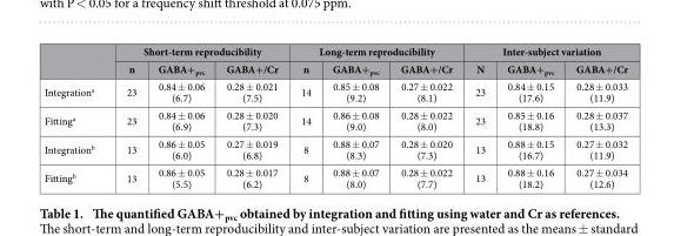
<table><thead><tr><td rowspan="2"></td><td colspan="3">Short-term reproducibility</td><td colspan="3">Long-term reproducibility</td><td colspan="3">Inter-subject variation</td></tr><tr><td>n</td><td>GABA+<sub>pvc</sub></td><td>GABA+/Cr</td><td>n</td><td>GABA+<sub>pvc</sub></td><td>GABA+/Cr</td><td>N</td><td>GABA+<sub>pvc</sub></td><td>GABA+/Cr</td></tr></thead><tbody><tr><td>Integration<sup>a</sup></td><td>23</td><td>0.84 ± 0.06 (6.7)</td><td>0.28 ± 0.021 (7.5)</td><td>14</td><td>0.85 ± 0.08 (9.2)</td><td>0.27 ± 0.022 (8.1)</td><td>23</td><td>0.84 ± 0.15 (17.6)</td><td>0.28 ± 0.033 (11.9)</td></tr><tr><td>Fitting<sup>a</sup></td><td>23</td><td>0.84 ± 0.06 (6.9)</td><td>0.28 ± 0.020 (7.3)</td><td>14</td><td>0.86 ± 0.08 (9.0)</td><td>0.28 ± 0.022 (8.0)</td><td>23</td><td>0.85 ± 0.16 (18.8)</td><td>0.28 ± 0.037 (13.3)</td></tr><tr><td>Integration<sup>b</sup></td><td>13</td><td>0.86 ± 0.05 (6.0)</td><td>0.27 ± 0.019 (6.8)</td><td>8</td><td>0.88 ± 0.07 (8.3)</td><td>0.28 ± 0.020 (7.3)</td><td>13</td><td>0.88 ± 0.15 (16.7)</td><td>0.27 ± 0.032 (11.9)</td></tr><tr><td>Fitting<sup>b</sup></td><td>13</td><td>0.86 ± 0.05 (5.5)</td><td>0.28 ± 0.017 (6.2)</td><td>8</td><td>0.88 ± 0.07 (8.0)</td><td>0.28 ± 0.022 (7.7)</td><td>13</td><td>0.88 ± 0.16 (18.2)</td><td>0.27 ± 0.034 (12.6)</td></tr></tbody></table>